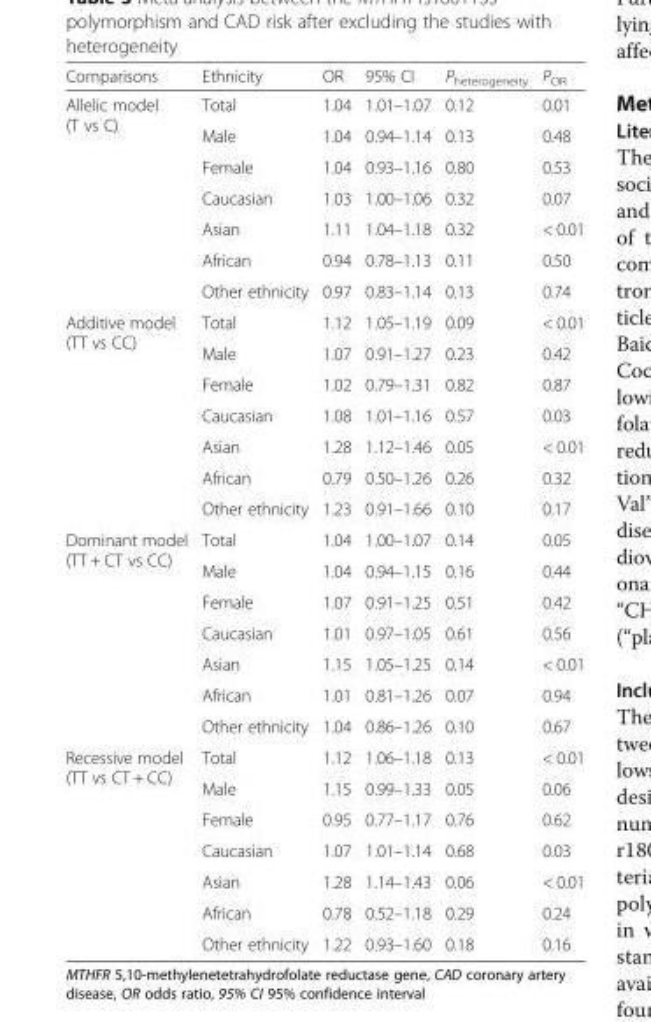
<table><thead><tr><td>Comparisons</td><td>Ethnicity</td><td>OR</td><td>95% CI</td><td>P<sub>heterogeneity</sub></td><td>P<sub>OR</sub></td></tr></thead><tbody><tr><td rowspan="7">Allelic model (T vs C)</td><td>Total</td><td>1.04</td><td>1.01–1.07</td><td>0.12</td><td>0.01</td></tr><tr><td>Male</td><td>1.04</td><td>0.94–1.14</td><td>0.13</td><td>0.48</td></tr><tr><td>Female</td><td>1.04</td><td>0.93–1.16</td><td>0.80</td><td>0.53</td></tr><tr><td>Caucasian</td><td>1.03</td><td>1.00–1.06</td><td>0.32</td><td>0.07</td></tr><tr><td>Asian</td><td>1.11</td><td>1.04–1.18</td><td>0.32</td><td>&lt; 0.01</td></tr><tr><td>African</td><td>0.94</td><td>0.78–1.13</td><td>0.11</td><td>0.50</td></tr><tr><td>Other ethnicity</td><td>0.97</td><td>0.83–1.14</td><td>0.13</td><td>0.74</td></tr><tr><td rowspan="7">Additive model (TT vs CC)</td><td>Total</td><td>1.12</td><td>1.05–1.19</td><td>0.09</td><td>&lt; 0.01</td></tr><tr><td>Male</td><td>1.07</td><td>0.91–1.27</td><td>0.23</td><td>0.42</td></tr><tr><td>Female</td><td>1.02</td><td>0.79–1.31</td><td>0.82</td><td>0.87</td></tr><tr><td>Caucasian</td><td>1.08</td><td>1.01–1.16</td><td>0.57</td><td>0.03</td></tr><tr><td>Asian</td><td>1.28</td><td>1.12–1.46</td><td>0.05</td><td>&lt; 0.01</td></tr><tr><td>African</td><td>0.79</td><td>0.50–1.26</td><td>0.26</td><td>0.32</td></tr><tr><td>Other ethnicity</td><td>1.23</td><td>0.91–1.66</td><td>0.10</td><td>0.17</td></tr><tr><td rowspan="7">Dominant model (TT + CT vs CC)</td><td>Total</td><td>1.04</td><td>1.00–1.07</td><td>0.14</td><td>0.05</td></tr><tr><td>Male</td><td>1.04</td><td>0.94–1.15</td><td>0.16</td><td>0.44</td></tr><tr><td>Female</td><td>1.07</td><td>0.91–1.25</td><td>0.51</td><td>0.42</td></tr><tr><td>Caucasian</td><td>1.01</td><td>0.97–1.05</td><td>0.61</td><td>0.56</td></tr><tr><td>Asian</td><td>1.15</td><td>1.05–1.25</td><td>0.14</td><td>&lt; 0.01</td></tr><tr><td>African</td><td>1.01</td><td>0.81–1.26</td><td>0.07</td><td>0.94</td></tr><tr><td>Other ethnicity</td><td>1.04</td><td>0.86–1.26</td><td>0.10</td><td>0.67</td></tr><tr><td rowspan="7">Recessive model (TT vs CT + CC)</td><td>Total</td><td>1.12</td><td>1.06–1.18</td><td>0.13</td><td>&lt; 0.01</td></tr><tr><td>Male</td><td>1.15</td><td>0.99–1.33</td><td>0.05</td><td>0.06</td></tr><tr><td>Female</td><td>0.95</td><td>0.77–1.17</td><td>0.76</td><td>0.62</td></tr><tr><td>Caucasian</td><td>1.07</td><td>1.01–1.14</td><td>0.68</td><td>0.03</td></tr><tr><td>Asian</td><td>1.28</td><td>1.14–1.43</td><td>0.06</td><td>&lt; 0.01</td></tr><tr><td>African</td><td>0.78</td><td>0.52–1.18</td><td>0.29</td><td>0.24</td></tr><tr><td>Other ethnicity</td><td>1.22</td><td>0.93–1.60</td><td>0.18</td><td>0.16</td></tr></tbody></table>